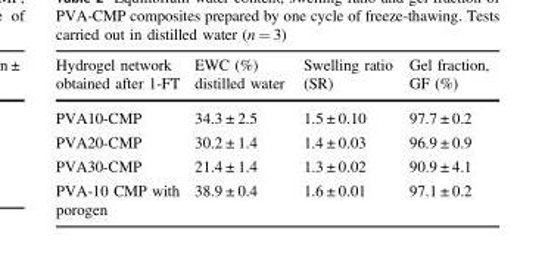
<table><thead><tr><td>Hydrogel network obtained after 1-FT</td><td>EWC (%) distilled water</td><td>Swelling ratio (SR)</td><td>Gel fraction, GF (%)</td></tr></thead><tbody><tr><td>PVA10-CMP</td><td>34.3 ± 2.5</td><td>1.5 ± 0.10</td><td>97.7 ± 0.2</td></tr><tr><td>PVA20-CMP</td><td>30.2 ± 1.4</td><td>1.4 ± 0.03</td><td>96.9 ± 0.9</td></tr><tr><td>PVA30-CMP</td><td>21.4 ± 1.4</td><td>1.3 ± 0.02</td><td>90.9 ± 4.1</td></tr><tr><td>PVA-10 CMP with porogen</td><td>38.9 ± 0.4</td><td>1.6 ± 0.01</td><td>97.1 ± 0.2</td></tr></tbody></table>